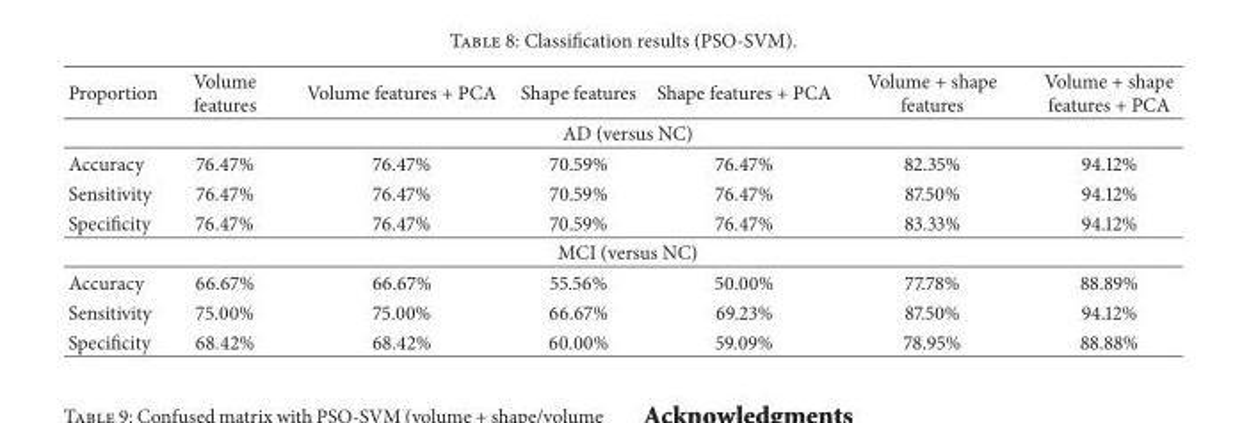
<table><thead><tr><td>Proportion</td><td>Volume features</td><td>Volume features + PCA</td><td>Shape features</td><td>Shape features + PCA</td><td>Volume + shape features</td><td>Volume + shape features + PCA</td></tr></thead><tbody><tr><td colspan="7">AD (versus NC)</td></tr><tr><td>Accuracy</td><td>76.47%</td><td>76.47%</td><td>70.59%</td><td>76.47%</td><td>82.35%</td><td>94.12%</td></tr><tr><td>Sensitivity</td><td>76.47%</td><td>76.47%</td><td>70.59%</td><td>76.47%</td><td>87.50%</td><td>94.12%</td></tr><tr><td>Specificity</td><td>76.47%</td><td>76.47%</td><td>70.59%</td><td>76.47%</td><td>83.33%</td><td>94.12%</td></tr><tr><td colspan="7">MCI (versus NC)</td></tr><tr><td>Accuracy</td><td>66.67%</td><td>66.67%</td><td>55.56%</td><td>50.00%</td><td>77.78%</td><td>88.89%</td></tr><tr><td>Sensitivity</td><td>75.00%</td><td>75.00%</td><td>66.67%</td><td>69.23%</td><td>87.50%</td><td>94.12%</td></tr><tr><td>Specificity</td><td>68.42%</td><td>68.42%</td><td>60.00%</td><td>59.09%</td><td>78.95%</td><td>88.88%</td></tr></tbody></table>